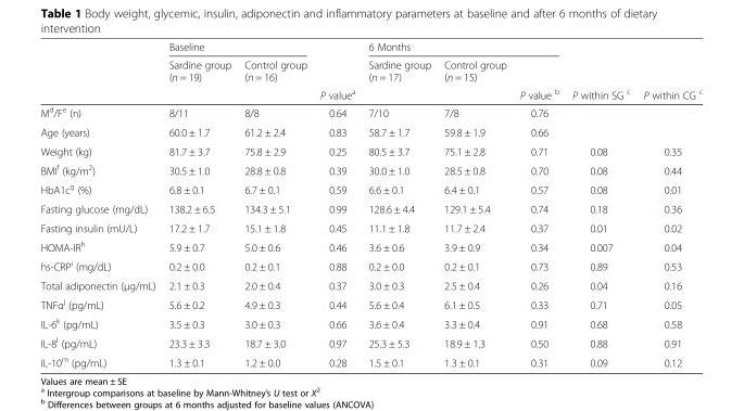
<table><thead><tr><td rowspan="3"></td><td colspan="2">Baseline</td><td rowspan="3">P value<sup>a</sup></td><td colspan="3">6 Months</td><td rowspan="3">P within SG <sup>c</sup></td><td rowspan="3">P within CG <sup>c</sup></td></tr><tr><td rowspan="2">Sardine group (n = 19)</td><td rowspan="2">Control group (n = 16)</td><td rowspan="2">Sardine group (n = 17)</td><td rowspan="2">Control group (n = 15)</td><td rowspan="2">P value <sup>b</sup></td></tr><tr></tr></thead><tbody><tr><td>M<sup>d</sup>/F<sup>e</sup> (n)</td><td>8/11</td><td>8/8</td><td>0.64</td><td>7/10</td><td>7/8</td><td>0.76</td><td></td><td></td></tr><tr><td>Age (years)</td><td>60.0 ± 1.7</td><td>61.2 ± 2.4</td><td>0.83</td><td>58.7 ± 1.7</td><td>59.8 ± 1.9</td><td>0.66</td><td></td><td></td></tr><tr><td>Weight (kg)</td><td>81.7 ± 3.7</td><td>75.8 ± 2.9</td><td>0.25</td><td>80.5 ± 3.7</td><td>75.1 ± 2.8</td><td>0.71</td><td>0.08</td><td>0.35</td></tr><tr><td>BMI<sup>f</sup> (kg/m<sup>2</sup>)</td><td>30.5 ± 1.0</td><td>28.8 ± 0.8</td><td>0.39</td><td>30.0 ± 1.0</td><td>28.5 ± 0.8</td><td>0.70</td><td>0.08</td><td>0.44</td></tr><tr><td>HbA1c<sup>g</sup> (%)</td><td>6.8 ± 0.1</td><td>6.7 ± 0.1</td><td>0.59</td><td>6.6 ± 0.1</td><td>6.4 ± 0.1</td><td>0.57</td><td>0.08</td><td>0.01</td></tr><tr><td>Fasting glucose (mg/dL)</td><td>138.2 ± 6.5</td><td>134.3 ± 5.1</td><td>0.99</td><td>128.6 ± 4.4</td><td>129.1 ± 5.4</td><td>0.74</td><td>0.18</td><td>0.36</td></tr><tr><td>Fasting insulin (mU/L)</td><td>17.2 ± 1.7</td><td>15.1 ± 1.8</td><td>0.45</td><td>11.1 ± 1.8</td><td>11.7 ± 2.4</td><td>0.37</td><td>0.01</td><td>0.02</td></tr><tr><td>HOMA-IR<sup>h</sup></td><td>5.9 ± 0.7</td><td>5.0 ± 0.6</td><td>0.46</td><td>3.6 ± 0.6</td><td>3.9 ± 0.9</td><td>0.34</td><td>0.007</td><td>0.04</td></tr><tr><td>hs-CRP<sup>i</sup> (mg/dL)</td><td>0.2 ± 0.0</td><td>0.2 ± 0.1</td><td>0.88</td><td>0.2 ± 0.0</td><td>0.2 ± 0.1</td><td>0.73</td><td>0.89</td><td>0.53</td></tr><tr><td>Total adiponectin (μg/mL)</td><td>2.1 ± 0.3</td><td>2.0 ± 0.4</td><td>0.37</td><td>3.0 ± 0.3</td><td>2.5 ± 0.4</td><td>0.26</td><td>0.04</td><td>0.16</td></tr><tr><td>TNFα<sup>j</sup> (pg/mL)</td><td>5.6 ± 0.2</td><td>4.9 ± 0.3</td><td>0.44</td><td>5.6 ± 0.4</td><td>6.1 ± 0.5</td><td>0.33</td><td>0.71</td><td>0.05</td></tr><tr><td>IL-6<sup>k</sup> (pg/mL)</td><td>3.5 ± 0.3</td><td>3.0 ± 0.3</td><td>0.66</td><td>3.6 ± 0.4</td><td>3.3 ± 0.4</td><td>0.91</td><td>0.68</td><td>0.58</td></tr><tr><td>IL-8<sup>l</sup> (pg/mL)</td><td>23.3 ± 3.3</td><td>18.7 ± 3.0</td><td>0.97</td><td>25.3 ± 5.3</td><td>18.9 ± 1.3</td><td>0.50</td><td>0.88</td><td>0.91</td></tr><tr><td>IL-10<sup>m</sup> (pg/mL)</td><td>1.3 ± 0.1</td><td>1.2 ± 0.0</td><td>0.28</td><td>1.5 ± 0.1</td><td>1.3 ± 0.1</td><td>0.31</td><td>0.09</td><td>0.12</td></tr></tbody></table>